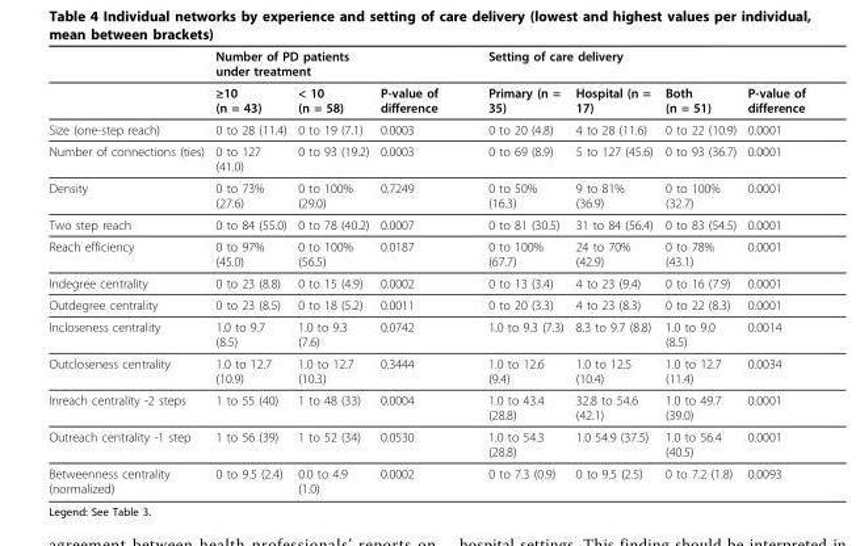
<table><thead><tr><td rowspan="2"></td><td colspan="2">Number of PD patients under treatment</td><td rowspan="2">P-value of difference</td><td colspan="3">Setting of care delivery</td><td rowspan="2">P-value of difference</td></tr><tr><td>≥10 (n = 43)</td><td>&lt; 10 (n = 58)</td><td>Primary (n = 35)</td><td>Hospital (n = 17)</td><td>Both (n = 51)</td></tr></thead><tbody><tr><td>Size (one-step reach)</td><td>0 to 28 (11.4)</td><td>0 to 19 (7.1)</td><td>0.0003</td><td>0 to 20 (4.8)</td><td>4 to 28 (11.6)</td><td>0 to 22 (10.9)</td><td>0.0001</td></tr><tr><td>Number of connections (ties)</td><td>0 to 127 (41.0)</td><td>0 to 93 (19.2)</td><td>0.0003</td><td>0 to 69 (8.9)</td><td>5 to 127 (45.6)</td><td>0 to 93 (36.7)</td><td>0.0001</td></tr><tr><td>Density</td><td>0 to 73% (27.6)</td><td>0 to 100% (29.0)</td><td>0.7249</td><td>0 to 50% (16.3)</td><td>9 to 81% (36.9)</td><td>0 to 100% (32.7)</td><td>0.0001</td></tr><tr><td>Two step reach</td><td>0 to 84 (55.0)</td><td>0 to 78 (40.2)</td><td>0.0007</td><td>0 to 81 (30.5)</td><td>31 to 84 (56.4)</td><td>0 to 83 (54.5)</td><td>0.0001</td></tr><tr><td>Reach efficiency</td><td>0 to 97% (45.0)</td><td>0 to 100% (56.5)</td><td>0.0187</td><td>0 to 100% (67.7)</td><td>24 to 70% (42.9)</td><td>0 to 78% (43.1)</td><td>0.0001</td></tr><tr><td>Indegree centrality</td><td>0 to 23 (8.8)</td><td>0 to 15 (4.9)</td><td>0.0002</td><td>0 to 13 (3.4)</td><td>4 to 23 (9.4)</td><td>0 to 16 (7.9)</td><td>0.0001</td></tr><tr><td>Outdegree centrality</td><td>0 to 23 (8.5)</td><td>0 to 18 (5.2)</td><td>0.0011</td><td>0 to 20 (3.3)</td><td>4 to 23 (8.3)</td><td>0 to 22 (8.3)</td><td>0.0001</td></tr><tr><td>Incloseness centrality</td><td>1.0 to 9.7 (8.5)</td><td>1.0 to 9.3 (7.6)</td><td>0.0742</td><td>1.0 to 9.3 (7.3)</td><td>8.3 to 9.7 (8.8)</td><td>1.0 to 9.0 (8.5)</td><td>0.0014</td></tr><tr><td>Outcloseness centrality</td><td>1.0 to 12.7 (10.9)</td><td>1.0 to 12.7 (10.3)</td><td>0.3444</td><td>1.0 to 12.6 (9.4)</td><td>1.0 to 12.5 (10.4)</td><td>1.0 to 12.7 (11.4)</td><td>0.0034</td></tr><tr><td>Inreach centrality -2 steps</td><td>1 to 55 (40)</td><td>1 to 48 (33)</td><td>0.0004</td><td>1.0 to 43.4 (28.8)</td><td>32.8 to 54.6 (42.1)</td><td>1.0 to 49.7 (39.0)</td><td>0.0001</td></tr><tr><td>Outreach centrality -1 step</td><td>1 to 56 (39)</td><td>1 to 52 (34)</td><td>0.0530</td><td>1.0 to 54.3 (28.8)</td><td>1.0 54.9 (37.5)</td><td>1.0 to 56.4 (40.5)</td><td>0.0001</td></tr><tr><td>Betweenness centrality (normalized)</td><td>0 to 9.5 (2.4)</td><td>0.0 to 4.9 (1.0)</td><td>0.0002</td><td>0 to 7.3 (0.9)</td><td>0 to 9.5 (2.5)</td><td>0 to 7.2 (1.8)</td><td>0.0093</td></tr></tbody></table>